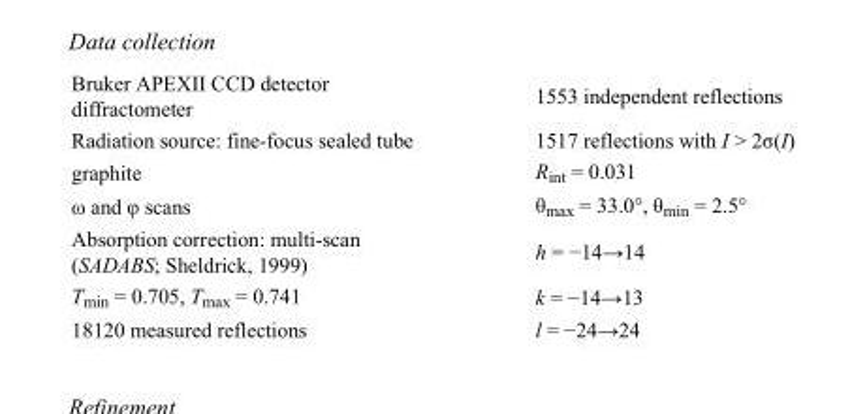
<table><tbody><tr><td>Bruker APEXII CCD detector diffractometer</td><td>1553 independent reflections</td></tr><tr><td>Radiation source: fine-focus sealed tube</td><td>1517 reflections with I &gt; 2σ(I)</td></tr><tr><td>graphite</td><td>R<sub>int</sub> = 0.031</td></tr><tr><td>ω and φ scans</td><td>θ<sub>max</sub> = 33.0°, θ<sub>min</sub> = 2.5°</td></tr><tr><td>Absorption correction: multi-scan (SADABS; Sheldrick, 1999)</td><td>h = −14→14</td></tr><tr><td>T<sub>min</sub> = 0.705, T<sub>max</sub> = 0.741</td><td>k = −14→13</td></tr><tr><td>18120 measured reflections</td><td>l = −24→24</td></tr></tbody></table>